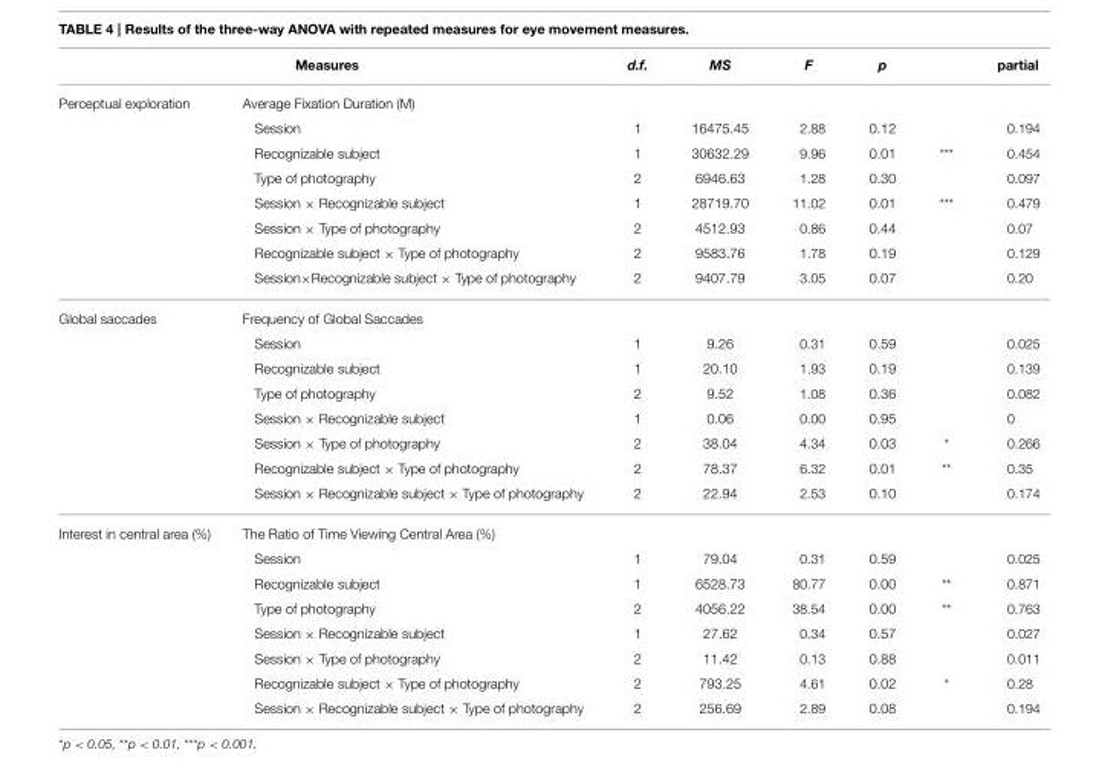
<table><thead><tr><td colspan="2">Measures</td><td>d.f.</td><td>MS</td><td>F</td><td>p</td><td></td><td>partial</td></tr><tr><td rowspan="2">Perceptual exploration</td><td colspan="7">Average Fixation Duration (M)</td></tr><tr><td>Session</td><td>1</td><td>16475.45</td><td>2.88</td><td>0.12</td><td></td><td>0.194</td></tr></thead><tbody><tr><td></td><td>Recognizable subject</td><td>1</td><td>30632.29</td><td>9.96</td><td>0.01</td><td>***</td><td>0.454</td></tr><tr><td></td><td>Type of photography</td><td>2</td><td>6946.63</td><td>1.28</td><td>0.30</td><td></td><td>0.097</td></tr><tr><td></td><td>Session × Recognizable subject</td><td>1</td><td>28719.70</td><td>11.02</td><td>0.01</td><td>***</td><td>0.479</td></tr><tr><td></td><td>Session × Type of photography</td><td>2</td><td>4512.93</td><td>0.86</td><td>0.44</td><td></td><td>0.07</td></tr><tr><td></td><td>Recognizable subject × Type of photography</td><td>2</td><td>9583.76</td><td>1.78</td><td>0.19</td><td></td><td>0.129</td></tr><tr><td></td><td>Session×Recognizable subject × Type of photography</td><td>2</td><td>9407.79</td><td>3.05</td><td>0.07</td><td></td><td>0.20</td></tr><tr><td rowspan="8">Global saccades</td><td colspan="7">Frequency of Global Saccades</td></tr><tr><td>Session</td><td>1</td><td>9.26</td><td>0.31</td><td>0.59</td><td></td><td>0.025</td></tr><tr><td>Recognizable subject</td><td>1</td><td>20.10</td><td>1.93</td><td>0.19</td><td></td><td>0.139</td></tr><tr><td>Type of photography</td><td>2</td><td>9.52</td><td>1.08</td><td>0.36</td><td></td><td>0.082</td></tr><tr><td>Session × Recognizable subject</td><td>1</td><td>0.06</td><td>0.00</td><td>0.95</td><td></td><td>0</td></tr><tr><td>Session × Type of photography</td><td>2</td><td>38.04</td><td>4.34</td><td>0.03</td><td>*</td><td>0.266</td></tr><tr><td>Recognizable subject × Type of photography</td><td>2</td><td>78.37</td><td>6.32</td><td>0.01</td><td>**</td><td>0.35</td></tr><tr><td>Session × Recognizable subject × Type of photography</td><td>2</td><td>22.94</td><td>2.53</td><td>0.10</td><td></td><td>0.174</td></tr><tr><td rowspan="8">Interest in central area (%)</td><td colspan="7">The Ratio of Time Viewing Central Area (%)</td></tr><tr><td>Session</td><td>1</td><td>79.04</td><td>0.31</td><td>0.59</td><td></td><td>0.025</td></tr><tr><td>Recognizable subject</td><td>1</td><td>6528.73</td><td>80.77</td><td>0.00</td><td>**</td><td>0.871</td></tr><tr><td>Type of photography</td><td>2</td><td>4056.22</td><td>38.54</td><td>0.00</td><td>**</td><td>0.763</td></tr><tr><td>Session × Recognizable subject</td><td>1</td><td>27.62</td><td>0.34</td><td>0.57</td><td></td><td>0.027</td></tr><tr><td>Session × Type of photography</td><td>2</td><td>11.42</td><td>0.13</td><td>0.88</td><td></td><td>0.011</td></tr><tr><td>Recognizable subject × Type of photography</td><td>2</td><td>793.25</td><td>4.61</td><td>0.02</td><td>*</td><td>0.28</td></tr><tr><td>Session × Recognizable subject × Type of photography</td><td>2</td><td>256.69</td><td>2.89</td><td>0.08</td><td></td><td>0.194</td></tr></tbody></table>